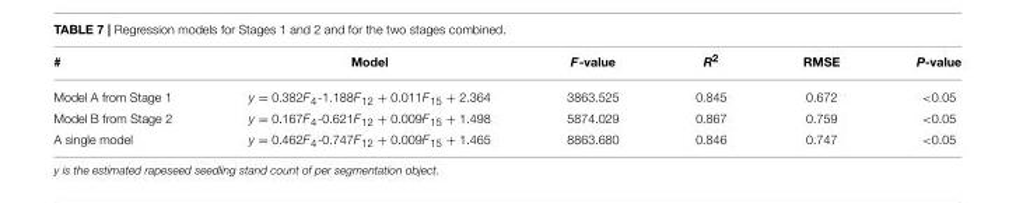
<table><thead><tr><td>#</td><td>Model</td><td>F-value</td><td>R<sup>2</sup></td><td>RMSE</td><td>P-value</td></tr></thead><tbody><tr><td>Model A from Stage 1</td><td>y = 0.382F<sub>4</sub>-1.188F<sub>12</sub> + 0.011F<sub>15</sub> + 2.364</td><td>3863.525</td><td>0.845</td><td>0.672</td><td>&lt;0.05</td></tr><tr><td>Model B from Stage 2</td><td>y = 0.167F<sub>4</sub>-0.621F<sub>12</sub> + 0.009F<sub>15</sub> + 1.498</td><td>5874.029</td><td>0.867</td><td>0.759</td><td>&lt;0.05</td></tr><tr><td>A single model</td><td>y = 0.462F<sub>4</sub>-0.747F<sub>12</sub> + 0.009F<sub>15</sub> + 1.465</td><td>8863.680</td><td>0.846</td><td>0.747</td><td>&lt;0.05</td></tr></tbody></table>